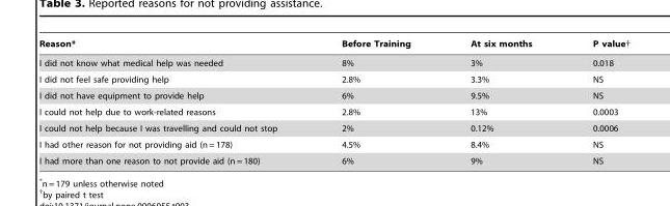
<table><thead><tr><td>Reason*</td><td>Before Training</td><td>At six months</td><td>P value†</td></tr></thead><tbody><tr><td>I did not know what medical help was needed</td><td>8%</td><td>3%</td><td>0.018</td></tr><tr><td>I did not feel safe providing help</td><td>2.8%</td><td>3.3%</td><td>NS</td></tr><tr><td>I did not have equipment to provide help</td><td>6%</td><td>9.5%</td><td>NS</td></tr><tr><td>I could not help due to work-related reasons</td><td>2.8%</td><td>13%</td><td>0.0003</td></tr><tr><td>I could not help because I was travelling and could not stop</td><td>2%</td><td>0.12%</td><td>0.0006</td></tr><tr><td>I had other reason for not providing aid (n = 178)</td><td>4.5%</td><td>8.4%</td><td>NS</td></tr><tr><td>I had more than one reason to not provide aid (n = 180)</td><td>6%</td><td>9%</td><td>NS</td></tr></tbody></table>